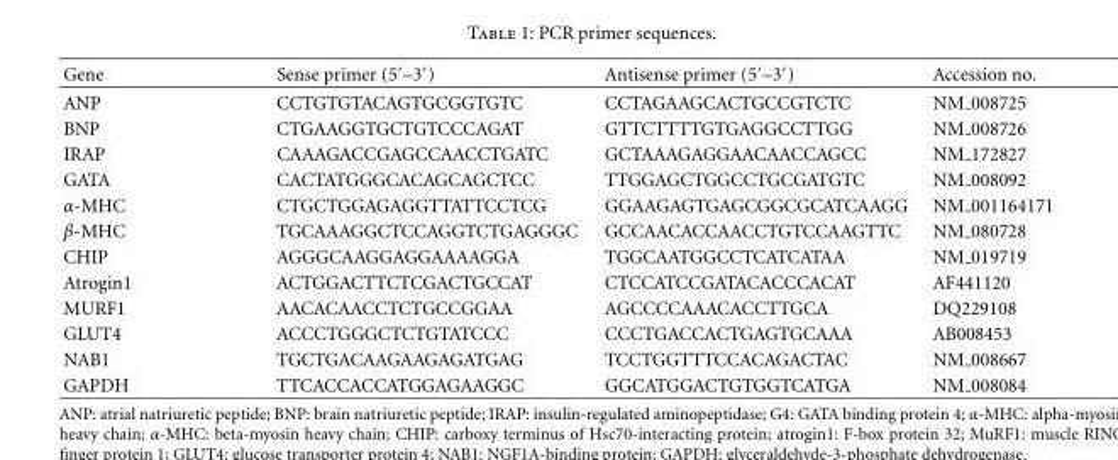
<table><thead><tr><td>Gene</td><td>Sense primer (5′–3′)</td><td>Antisense primer (5′–3′)</td><td>Accession no.</td></tr></thead><tbody><tr><td>ANP</td><td>CCTGTGTACAGTGCGGTGTC</td><td>CCTAGAAGCACTGCCGTCTC</td><td>NM 008725</td></tr><tr><td>BNP</td><td>CTGAAGGTGCTGTCCCAGAT</td><td>GTTCTTTTGTGAGGCCTTGG</td><td>NM 008726</td></tr><tr><td>IRAP</td><td>CAAAGACCGAGCCAACCTGATC</td><td>GCTAAAGAGGAACAACCAGCC</td><td>NM 172827</td></tr><tr><td>GATA</td><td>CACTATGGGCACAGCAGCTCC</td><td>TTGGAGCTGGCCTGCGATGTC</td><td>NM 008092</td></tr><tr><td>α-MHC</td><td>CTGCTGGAGAGGTTATTCCTCG</td><td>GGAAGAGTGAGCGGCGCATCAAGG</td><td>NM 001164171</td></tr><tr><td>β-MHC</td><td>TGCAAAGGCTCCAGGTCTGAGGGC</td><td>GCCAACACCAACCTGTCCAAGTTC</td><td>NM 080728</td></tr><tr><td>CHIP</td><td>AGGGCAAGGAGGAAAAGGA</td><td>TGGCAATGGCCTCATCATAA</td><td>NM 019719</td></tr><tr><td>Atrogin1</td><td>ACTGGACTTCTCGACTGCCAT</td><td>CTCCATCCGATACACCCACAT</td><td>AF441120</td></tr><tr><td>MURF1</td><td>AACACAACCTCTGCCGGAA</td><td>AGCCCCAAACACCTTGCA</td><td>DQ229108</td></tr><tr><td>GLUT4</td><td>ACCCTGGGCTCTGTATCCC</td><td>CCCTGACCACTGAGTGCAAA</td><td>AB008453</td></tr><tr><td>NAB1</td><td>TGCTGACAAGAAGAGATGAG</td><td>TCCTGGTTTCCACAGACTAC</td><td>NM 008667</td></tr><tr><td>GAPDH</td><td>TTCACCACCATGGAGAAGGC</td><td>GGCATGGACTGTGGTCATGA</td><td>NM 008084</td></tr></tbody></table>